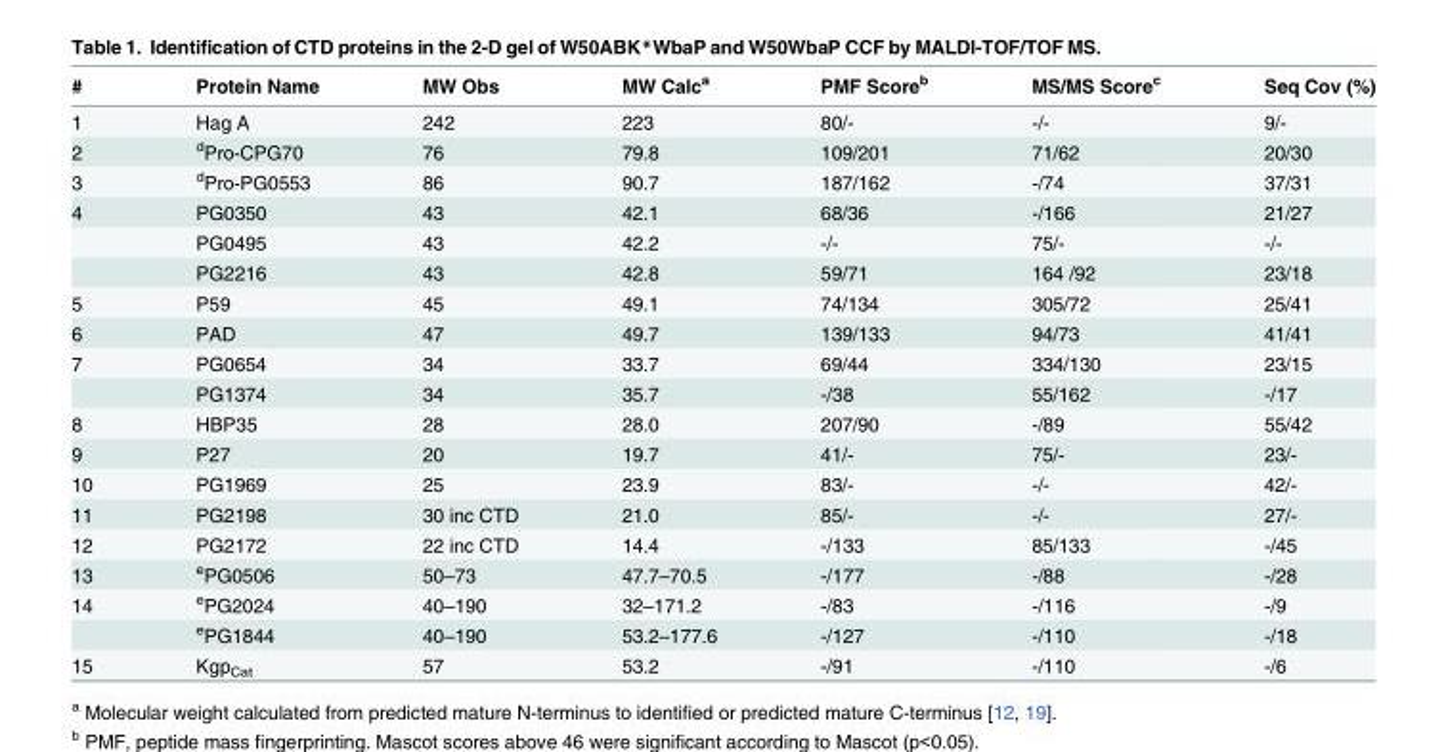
<table><thead><tr><td>#</td><td>Protein Name</td><td>MW Obs</td><td>MW Calc<sup>a</sup></td><td>PMF Score<sup>b</sup></td><td>MS/MS Score<sup>c</sup></td><td>Seq Cov (%)</td></tr></thead><tbody><tr><td>1</td><td>Hag A</td><td>242</td><td>223</td><td>80/-</td><td>-/-</td><td>9/-</td></tr><tr><td>2</td><td><sup>d</sup>Pro-CPG70</td><td>76</td><td>79.8</td><td>109/201</td><td>71/62</td><td>20/30</td></tr><tr><td>3</td><td><sup>d</sup>Pro-PG0553</td><td>86</td><td>90.7</td><td>187/162</td><td>-/74</td><td>37/31</td></tr><tr><td rowspan="3">4</td><td>PG0350</td><td>43</td><td>42.1</td><td>68/36</td><td>-/166</td><td>21/27</td></tr><tr><td>PG0495</td><td>43</td><td>42.2</td><td>-/-</td><td>75/-</td><td>-/-</td></tr><tr><td>PG2216</td><td>43</td><td>42.8</td><td>59/71</td><td>164 /92</td><td>23/18</td></tr><tr><td>5</td><td>P59</td><td>45</td><td>49.1</td><td>74/134</td><td>305/72</td><td>25/41</td></tr><tr><td>6</td><td>PAD</td><td>47</td><td>49.7</td><td>139/133</td><td>94/73</td><td>41/41</td></tr><tr><td rowspan="2">7</td><td>PG0654</td><td>34</td><td>33.7</td><td>69/44</td><td>334/130</td><td>23/15</td></tr><tr><td>PG1374</td><td>34</td><td>35.7</td><td>-/38</td><td>55/162</td><td>-/17</td></tr><tr><td>8</td><td>HBP35</td><td>28</td><td>28.0</td><td>207/90</td><td>-/89</td><td>55/42</td></tr><tr><td>9</td><td>P27</td><td>20</td><td>19.7</td><td>41/-</td><td>75/-</td><td>23/-</td></tr><tr><td>10</td><td>PG1969</td><td>25</td><td>23.9</td><td>83/-</td><td>-/-</td><td>42/-</td></tr><tr><td>11</td><td>PG2198</td><td>30 inc CTD</td><td>21.0</td><td>85/-</td><td>-/-</td><td>27/-</td></tr><tr><td>12</td><td>PG2172</td><td>22 inc CTD</td><td>14.4</td><td>-/133</td><td>85/133</td><td>-/45</td></tr><tr><td>13</td><td><sup>e</sup>PG0506</td><td>50–73</td><td>47.7–70.5</td><td>-/177</td><td>-/88</td><td>-/28</td></tr><tr><td rowspan="2">14</td><td><sup>e</sup>PG2024</td><td>40–190</td><td>32–171.2</td><td>-/83</td><td>-/116</td><td>-/9</td></tr><tr><td><sup>e</sup>PG1844</td><td>40–190</td><td>53.2–177.6</td><td>-/127</td><td>-/110</td><td>-/18</td></tr><tr><td>15</td><td>Kgp<sub>Cat</sub></td><td>57</td><td>53.2</td><td>-/91</td><td>-/110</td><td>-/6</td></tr></tbody></table>